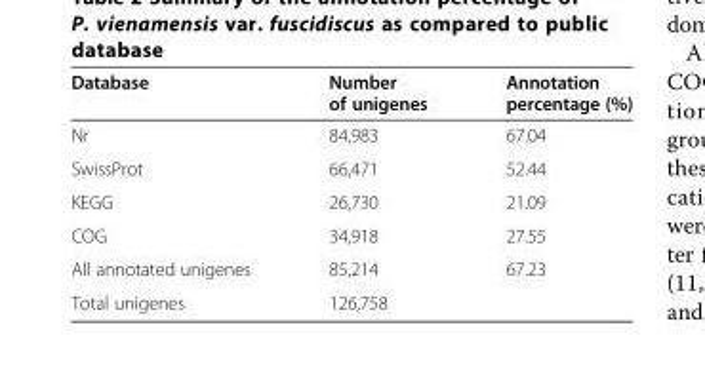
<table><thead><tr><td>Database</td><td>Number of unigenes</td><td>Annotation percentage (%)</td></tr></thead><tbody><tr><td>Nr</td><td>84,983</td><td>67.04</td></tr><tr><td>SwissProt</td><td>66,471</td><td>52.44</td></tr><tr><td>KEGG</td><td>26,730</td><td>21.09</td></tr><tr><td>COG</td><td>34,918</td><td>27.55</td></tr><tr><td>All annotated unigenes</td><td>85,214</td><td>67.23</td></tr><tr><td>Total unigenes</td><td>126,758</td><td></td></tr></tbody></table>